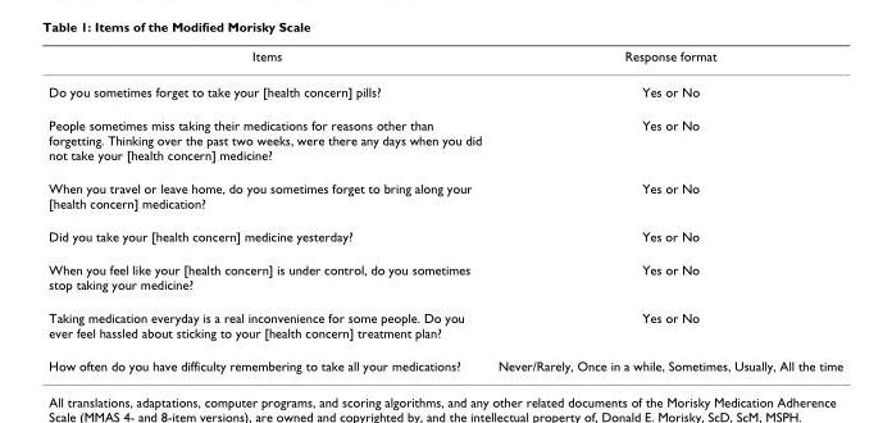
<table><thead><tr><td>Items</td><td>Response format</td></tr></thead><tbody><tr><td>Do you sometimes forget to take your [health concern] pills?</td><td>Yes or No</td></tr><tr><td>People sometimes miss taking their medications for reasons other than forgetting. Thinking over the past two weeks, were there any days when you did not take your [health concern] medicine?</td><td>Yes or No</td></tr><tr><td>When you travel or leave home, do you sometimes forget to bring along your [health concern] medication?</td><td>Yes or No</td></tr><tr><td>Did you take your [health concern] medicine yesterday?</td><td>Yes or No</td></tr><tr><td>When you feel like your [health concern] is under control, do you sometimes stop taking your medicine?</td><td>Yes or No</td></tr><tr><td>Taking medication everyday is a real inconvenience for some people. Do you ever feel hassled about sticking to your [health concern] treatment plan?</td><td>Yes or No</td></tr><tr><td>How often do you have difficulty remembering to take all your medications?</td><td>Never/Rarely, Once in a while, Sometimes, Usually, All the time</td></tr></tbody></table>